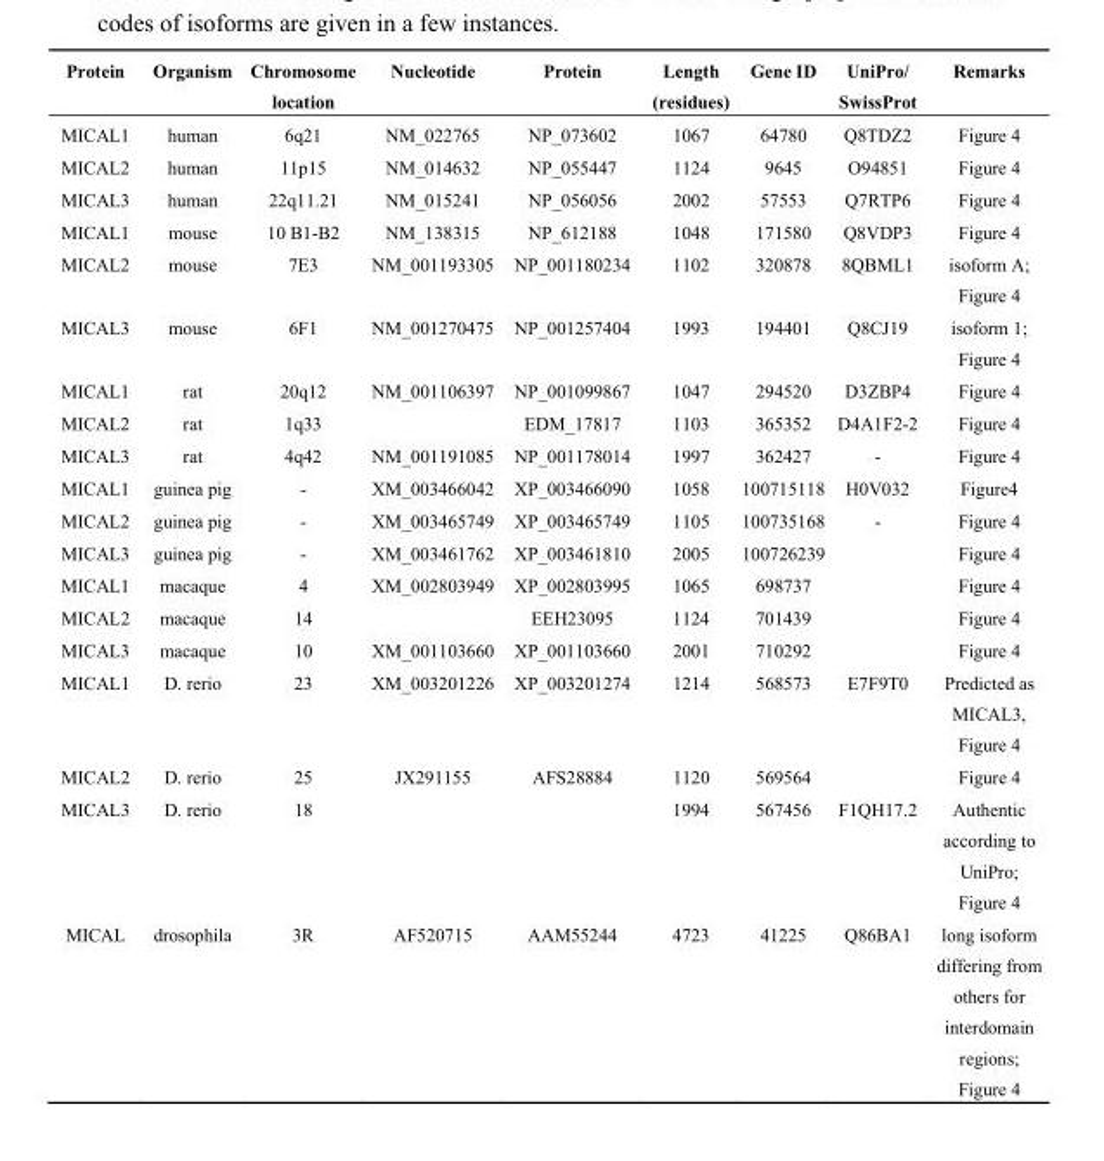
<table><thead><tr><td>Protein</td><td>Organism</td><td>Chromosome location</td><td>Nucleotide</td><td>Protein</td><td>Length (residues)</td><td>Gene ID</td><td>UniPro/ SwissProt</td><td>Remarks</td></tr></thead><tbody><tr><td>MICAL1</td><td>human</td><td>6q21</td><td>NM_022765</td><td>NP_073602</td><td>1067</td><td>64780</td><td>Q8TDZ2</td><td>Figure 4</td></tr><tr><td>MICAL2</td><td>human</td><td>11p15</td><td>NM_014632</td><td>NP_055447</td><td>1124</td><td>9645</td><td>O94851</td><td>Figure 4</td></tr><tr><td>MICAL3</td><td>human</td><td>22q11.21</td><td>NM_015241</td><td>NP_056056</td><td>2002</td><td>57553</td><td>Q7RTP6</td><td>Figure 4</td></tr><tr><td>MICAL1</td><td>mouse</td><td>10 B1-B2</td><td>NM_138315</td><td>NP_612188</td><td>1048</td><td>171580</td><td>Q8VDP3</td><td>Figure 4</td></tr><tr><td>MICAL2</td><td>mouse</td><td>7E3</td><td>NM_001193305</td><td>NP_001180234</td><td>1102</td><td>320878</td><td>8QBML1</td><td>isoform A; Figure 4</td></tr><tr><td>MICAL3</td><td>mouse</td><td>6F1</td><td>NM_001270475</td><td>NP_001257404</td><td>1993</td><td>194401</td><td>Q8CJ19</td><td>isoform 1; Figure 4</td></tr><tr><td>MICAL1</td><td>rat</td><td>20q12</td><td>NM_001106397</td><td>NP_001099867</td><td>1047</td><td>294520</td><td>D3ZBP4</td><td>Figure 4</td></tr><tr><td>MICAL2</td><td>rat</td><td>1q33</td><td></td><td>EDM_17817</td><td>1103</td><td>365352</td><td>D4A1F2-2</td><td>Figure 4</td></tr><tr><td>MICAL3</td><td>rat</td><td>4q42</td><td>NM_001191085</td><td>NP_001178014</td><td>1997</td><td>362427</td><td>-</td><td>Figure 4</td></tr><tr><td>MICAL1</td><td>guinea pig</td><td>-</td><td>XM_003466042</td><td>XP_003466090</td><td>1058</td><td>100715118</td><td>H0V032</td><td>Figure4</td></tr><tr><td>MICAL2</td><td>guinea pig</td><td>-</td><td>XM_003465749</td><td>XP_003465749</td><td>1105</td><td>100735168</td><td>-</td><td>Figure 4</td></tr><tr><td>MICAL3</td><td>guinea pig</td><td>-</td><td>XM_003461762</td><td>XP_003461810</td><td>2005</td><td>100726239</td><td></td><td>Figure 4</td></tr><tr><td>MICAL1</td><td>macaque</td><td>4</td><td>XM_002803949</td><td>XP_002803995</td><td>1065</td><td>698737</td><td></td><td>Figure 4</td></tr><tr><td>MICAL2</td><td>macaque</td><td>14</td><td></td><td>EEH23095</td><td>1124</td><td>701439</td><td></td><td>Figure 4</td></tr><tr><td>MICAL3</td><td>macaque</td><td>10</td><td>XM_001103660</td><td>XP_001103660</td><td>2001</td><td>710292</td><td></td><td>Figure 4</td></tr><tr><td>MICAL1</td><td>D. rerio</td><td>23</td><td>XM_003201226</td><td>XP_003201274</td><td>1214</td><td>568573</td><td>E7F9T0</td><td>Predicted as MICAL3, Figure 4</td></tr><tr><td>MICAL2</td><td>D. rerio</td><td>25</td><td>JX291155</td><td>AFS28884</td><td>1120</td><td>569564</td><td></td><td>Figure 4</td></tr><tr><td>MICAL3</td><td>D. rerio</td><td>18</td><td></td><td></td><td>1994</td><td>567456</td><td>F1QH17.2</td><td>Authentic according to UniPro; Figure 4</td></tr><tr><td>MICAL</td><td>drosophila</td><td>3R</td><td>AF520715</td><td>AAM55244</td><td>4723</td><td>41225</td><td>Q86BA1</td><td>long isoform differing from others for interdomain regions; Figure 4</td></tr></tbody></table>